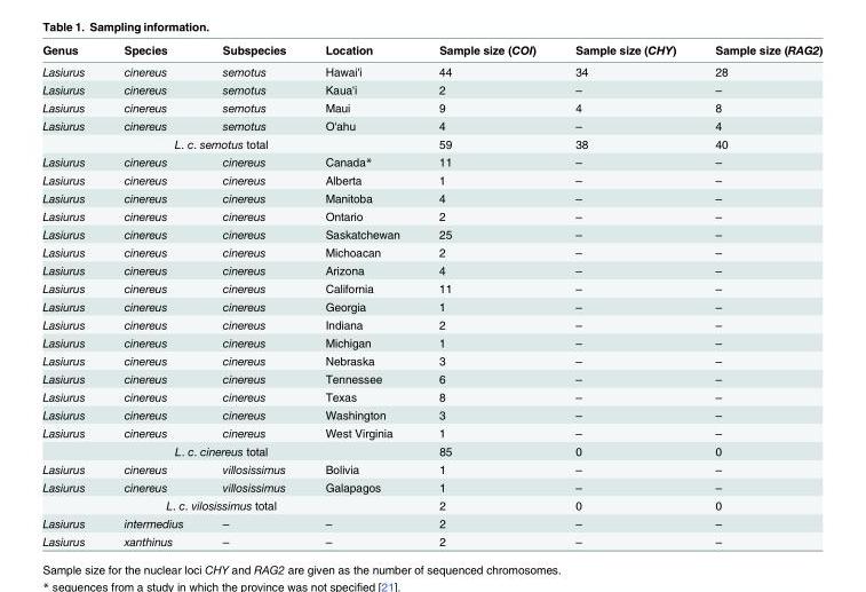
<table><thead><tr><td>Genus</td><td>Species</td><td>Subspecies</td><td>Location</td><td>Sample size (COI)</td><td>Sample size (CHY)</td><td>Sample size (RAG2)</td></tr></thead><tbody><tr><td>Lasiurus</td><td>cinereus</td><td>semotus</td><td>Hawai&#x27;i</td><td>44</td><td>34</td><td>28</td></tr><tr><td>Lasiurus</td><td>cinereus</td><td>semotus</td><td>Kaua&#x27;i</td><td>2</td><td>–</td><td>–</td></tr><tr><td>Lasiurus</td><td>cinereus</td><td>semotus</td><td>Maui</td><td>9</td><td>4</td><td>8</td></tr><tr><td>Lasiurus</td><td>cinereus</td><td>semotus</td><td>O&#x27;ahu</td><td>4</td><td>–</td><td>4</td></tr><tr><td colspan="4">L. c. semotus total</td><td>59</td><td>38</td><td>40</td></tr><tr><td>Lasiurus</td><td>cinereus</td><td>cinereus</td><td>Canada*</td><td>11</td><td>–</td><td>–</td></tr><tr><td>Lasiurus</td><td>cinereus</td><td>cinereus</td><td>Alberta</td><td>1</td><td>–</td><td>–</td></tr><tr><td>Lasiurus</td><td>cinereus</td><td>cinereus</td><td>Manitoba</td><td>4</td><td>–</td><td>–</td></tr><tr><td>Lasiurus</td><td>cinereus</td><td>cinereus</td><td>Ontario</td><td>2</td><td>–</td><td>–</td></tr><tr><td>Lasiurus</td><td>cinereus</td><td>cinereus</td><td>Saskatchewan</td><td>25</td><td>–</td><td>–</td></tr><tr><td>Lasiurus</td><td>cinereus</td><td>cinereus</td><td>Michoacan</td><td>2</td><td>–</td><td>–</td></tr><tr><td>Lasiurus</td><td>cinereus</td><td>cinereus</td><td>Arizona</td><td>4</td><td>–</td><td>–</td></tr><tr><td>Lasiurus</td><td>cinereus</td><td>cinereus</td><td>California</td><td>11</td><td>–</td><td>–</td></tr><tr><td>Lasiurus</td><td>cinereus</td><td>cinereus</td><td>Georgia</td><td>1</td><td>–</td><td>–</td></tr><tr><td>Lasiurus</td><td>cinereus</td><td>cinereus</td><td>Indiana</td><td>2</td><td>–</td><td>–</td></tr><tr><td>Lasiurus</td><td>cinereus</td><td>cinereus</td><td>Michigan</td><td>1</td><td>–</td><td>–</td></tr><tr><td>Lasiurus</td><td>cinereus</td><td>cinereus</td><td>Nebraska</td><td>3</td><td>–</td><td>–</td></tr><tr><td>Lasiurus</td><td>cinereus</td><td>cinereus</td><td>Tennessee</td><td>6</td><td>–</td><td>–</td></tr><tr><td>Lasiurus</td><td>cinereus</td><td>cinereus</td><td>Texas</td><td>8</td><td>–</td><td>–</td></tr><tr><td>Lasiurus</td><td>cinereus</td><td>cinereus</td><td>Washington</td><td>3</td><td>–</td><td>–</td></tr><tr><td>Lasiurus</td><td>cinereus</td><td>cinereus</td><td>West Virginia</td><td>1</td><td>–</td><td>–</td></tr><tr><td colspan="4">L. c. cinereus total</td><td>85</td><td>0</td><td>0</td></tr><tr><td>Lasiurus</td><td>cinereus</td><td>villosissimus</td><td>Bolivia</td><td>1</td><td>–</td><td>–</td></tr><tr><td>Lasiurus</td><td>cinereus</td><td>villosissimus</td><td>Galapagos</td><td>1</td><td>–</td><td>–</td></tr><tr><td colspan="4">L. c. vilosissimus total</td><td>2</td><td>0</td><td>0</td></tr><tr><td>Lasiurus</td><td>intermedius</td><td>–</td><td>–</td><td>2</td><td>–</td><td>–</td></tr><tr><td>Lasiurus</td><td>xanthinus</td><td>–</td><td>–</td><td>2</td><td>–</td><td>–</td></tr></tbody></table>